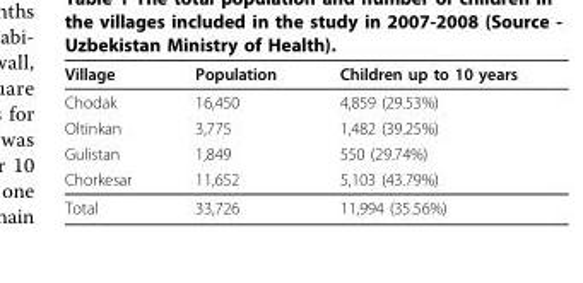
<table><thead><tr><td>Village</td><td>Population</td><td>Children up to 10 years</td></tr></thead><tbody><tr><td>Chodak</td><td>16,450</td><td>4,859 (29.53%)</td></tr><tr><td>Oltinkan</td><td>3,775</td><td>1,482 (39.25%)</td></tr><tr><td>Gulistan</td><td>1,849</td><td>550 (29.74%)</td></tr><tr><td>Chorkesar</td><td>11,652</td><td>5,103 (43.79%)</td></tr><tr><td>Total</td><td>33,726</td><td>11,994 (35.56%)</td></tr></tbody></table>